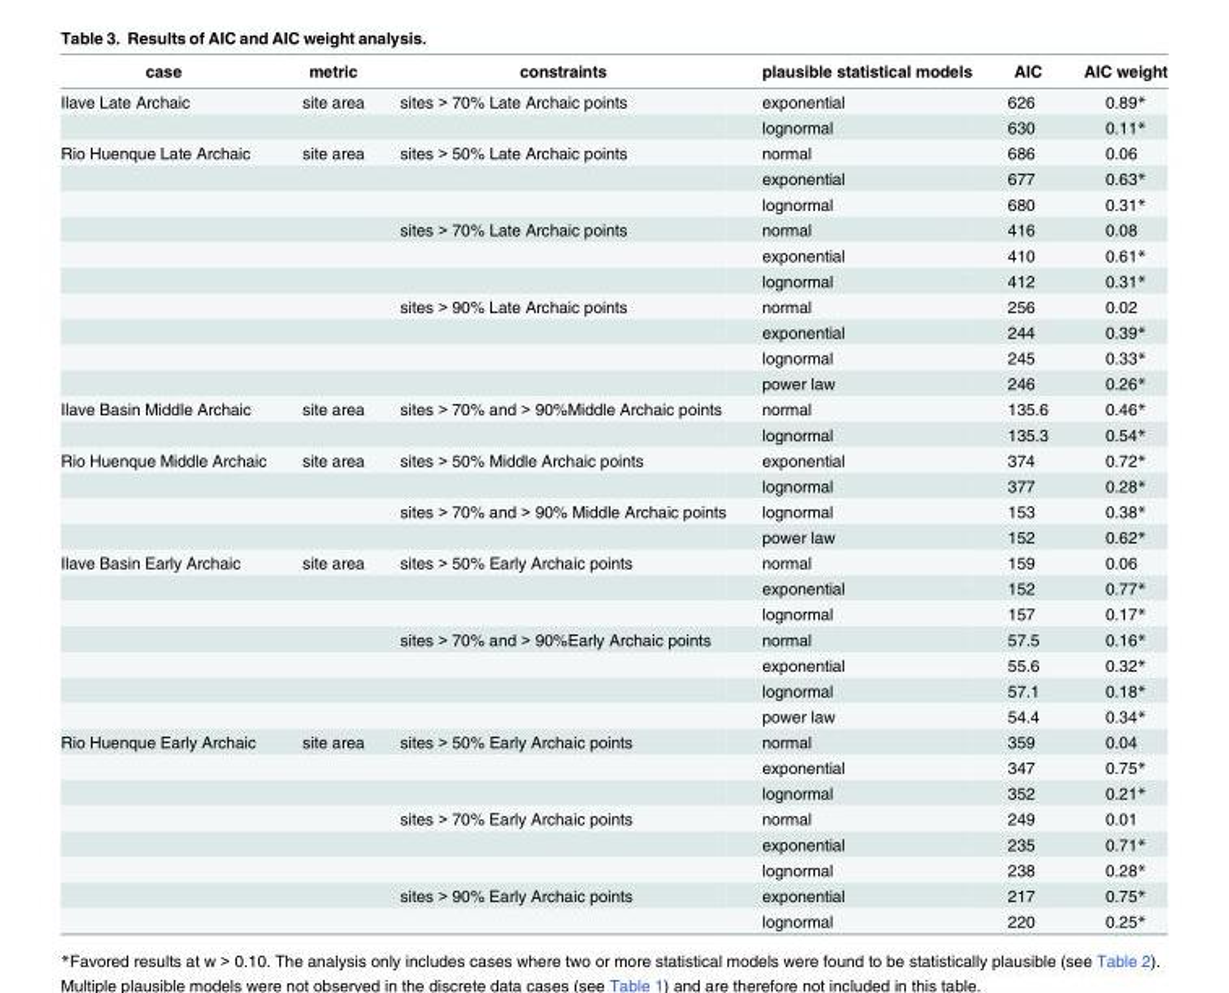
<table><thead><tr><td>case</td><td>metric</td><td>constraints</td><td>plausible statistical models</td><td>AIC</td><td>AIC weight</td></tr></thead><tbody><tr><td rowspan="2">Ilave Late Archaic</td><td rowspan="2">site area</td><td rowspan="2">sites &gt; 70% Late Archaic points</td><td>exponential</td><td>626</td><td>0.89*</td></tr><tr><td>lognormal</td><td>630</td><td>0.11*</td></tr><tr><td rowspan="10">Rio Huenque Late Archaic</td><td rowspan="10">site area</td><td rowspan="3">sites &gt; 50% Late Archaic points</td><td>normal</td><td>686</td><td>0.06</td></tr><tr><td>exponential</td><td>677</td><td>0.63*</td></tr><tr><td>lognormal</td><td>680</td><td>0.31*</td></tr><tr><td rowspan="3">sites &gt; 70% Late Archaic points</td><td>normal</td><td>416</td><td>0.08</td></tr><tr><td>exponential</td><td>410</td><td>0.61*</td></tr><tr><td>lognormal</td><td>412</td><td>0.31*</td></tr><tr><td rowspan="4">sites &gt; 90% Late Archaic points</td><td>normal</td><td>256</td><td>0.02</td></tr><tr><td>exponential</td><td>244</td><td>0.39*</td></tr><tr><td>lognormal</td><td>245</td><td>0.33*</td></tr><tr><td>power law</td><td>246</td><td>0.26*</td></tr><tr><td rowspan="2">Ilave Basin Middle Archaic</td><td rowspan="2">site area</td><td rowspan="2">sites &gt; 70% and &gt; 90%Middle Archaic points</td><td>normal</td><td>135.6</td><td>0.46*</td></tr><tr><td>lognormal</td><td>135.3</td><td>0.54*</td></tr><tr><td rowspan="4">Rio Huenque Middle Archaic</td><td rowspan="4">site area</td><td rowspan="2">sites &gt; 50% Middle Archaic points</td><td>exponential</td><td>374</td><td>0.72*</td></tr><tr><td>lognormal</td><td>377</td><td>0.28*</td></tr><tr><td rowspan="2">sites &gt; 70% and &gt; 90% Middle Archaic points</td><td>lognormal</td><td>153</td><td>0.38*</td></tr><tr><td>power law</td><td>152</td><td>0.62*</td></tr><tr><td rowspan="7">Ilave Basin Early Archaic</td><td rowspan="7">site area</td><td rowspan="3">sites &gt; 50% Early Archaic points</td><td>normal</td><td>159</td><td>0.06</td></tr><tr><td>exponential</td><td>152</td><td>0.77*</td></tr><tr><td>lognormal</td><td>157</td><td>0.17*</td></tr><tr><td rowspan="4">sites &gt; 70% and &gt; 90%Early Archaic points</td><td>normal</td><td>57.5</td><td>0.16*</td></tr><tr><td>exponential</td><td>55.6</td><td>0.32*</td></tr><tr><td>lognormal</td><td>57.1</td><td>0.18*</td></tr><tr><td>power law</td><td>54.4</td><td>0.34*</td></tr><tr><td rowspan="8">Rio Huenque Early Archaic</td><td rowspan="8">site area</td><td rowspan="3">sites &gt; 50% Early Archaic points</td><td>normal</td><td>359</td><td>0.04</td></tr><tr><td>exponential</td><td>347</td><td>0.75*</td></tr><tr><td>lognormal</td><td>352</td><td>0.21*</td></tr><tr><td rowspan="3">sites &gt; 70% Early Archaic points</td><td>normal</td><td>249</td><td>0.01</td></tr><tr><td>exponential</td><td>235</td><td>0.71*</td></tr><tr><td>lognormal</td><td>238</td><td>0.28*</td></tr><tr><td rowspan="2">sites &gt; 90% Early Archaic points</td><td>exponential</td><td>217</td><td>0.75*</td></tr><tr><td>lognormal</td><td>220</td><td>0.25*</td></tr></tbody></table>